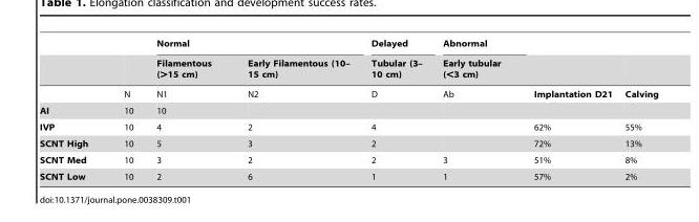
<table><thead><tr><td rowspan="2"></td><td rowspan="2"></td><td colspan="2">Normal</td><td rowspan="2">Delayed Tubular (3– 10 cm)</td><td rowspan="2">Abnormal Early tubular (&lt;3 cm)</td><td rowspan="2"></td><td rowspan="2"></td></tr><tr><td>Filamentous (&gt;15 cm)</td><td>Early Filamentous (10– 15 cm)</td></tr></thead><tbody><tr><td></td><td>N</td><td>N1</td><td>N2</td><td>D</td><td>Ab</td><td>Implantation D21</td><td>Calving</td></tr><tr><td>AI</td><td>10</td><td>10</td><td></td><td></td><td></td><td></td><td></td></tr><tr><td>IVP</td><td>10</td><td>4</td><td>2</td><td>4</td><td></td><td>62%</td><td>55%</td></tr><tr><td>SCNT High</td><td>10</td><td>5</td><td>3</td><td>2</td><td></td><td>72%</td><td>13%</td></tr><tr><td>SCNT Med</td><td>10</td><td>3</td><td>2</td><td>2</td><td>3</td><td>51%</td><td>8%</td></tr><tr><td>SCNT Low</td><td>10</td><td>2</td><td>6</td><td>1</td><td>1</td><td>57%</td><td>2%</td></tr></tbody></table>